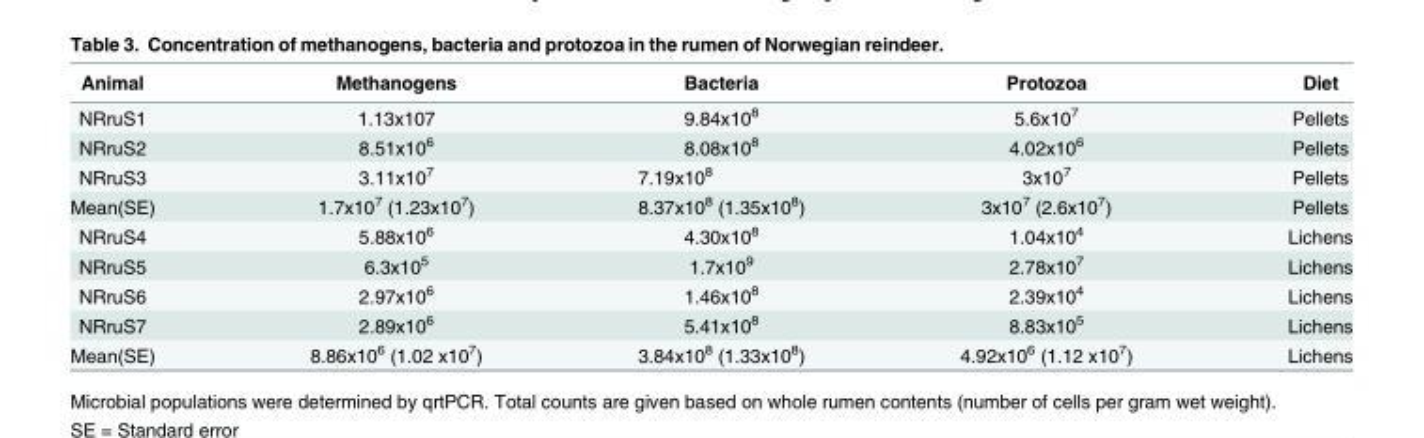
<table><thead><tr><td>Animal</td><td>Methanogens</td><td>Bacteria</td><td>Protozoa</td><td>Diet</td></tr></thead><tbody><tr><td>NRruS1</td><td>1.13x107</td><td>9.84x10<sup>8</sup></td><td>5.6x10<sup>7</sup></td><td>Pellets</td></tr><tr><td>NRruS2</td><td>8.51x10<sup>6</sup></td><td>8.08x10<sup>8</sup></td><td>4.02x10<sup>6</sup></td><td>Pellets</td></tr><tr><td>NRruS3</td><td>3.11x10<sup>7</sup></td><td>7.19x10<sup>8</sup></td><td>3x10<sup>7</sup></td><td>Pellets</td></tr><tr><td>Mean(SE)</td><td>1.7x10<sup>7</sup> (1.23x10<sup>7</sup>)</td><td>8.37x10<sup>8</sup> (1.35x10<sup>8</sup>)</td><td>3x10<sup>7</sup> (2.6x10<sup>7</sup>)</td><td>Pellets</td></tr><tr><td>NRruS4</td><td>5.88x10<sup>6</sup></td><td>4.30x10<sup>8</sup></td><td>1.04x10<sup>4</sup></td><td>Lichens</td></tr><tr><td>NRruS5</td><td>6.3x10<sup>5</sup></td><td>1.7x10<sup>9</sup></td><td>2.78x10<sup>7</sup></td><td>Lichens</td></tr><tr><td>NRruS6</td><td>2.97x10<sup>6</sup></td><td>1.46x10<sup>8</sup></td><td>2.39x10<sup>4</sup></td><td>Lichens</td></tr><tr><td>NRruS7</td><td>2.89x10<sup>6</sup></td><td>5.41x10<sup>8</sup></td><td>8.83x10<sup>5</sup></td><td>Lichens</td></tr><tr><td>Mean(SE)</td><td>8.86x10<sup>6</sup> (1.02 x10<sup>7</sup>)</td><td>3.84x10<sup>8</sup> (1.33x10<sup>8</sup>)</td><td>4.92x10<sup>6</sup> (1.12 x10<sup>7</sup>)</td><td>Lichens</td></tr></tbody></table>